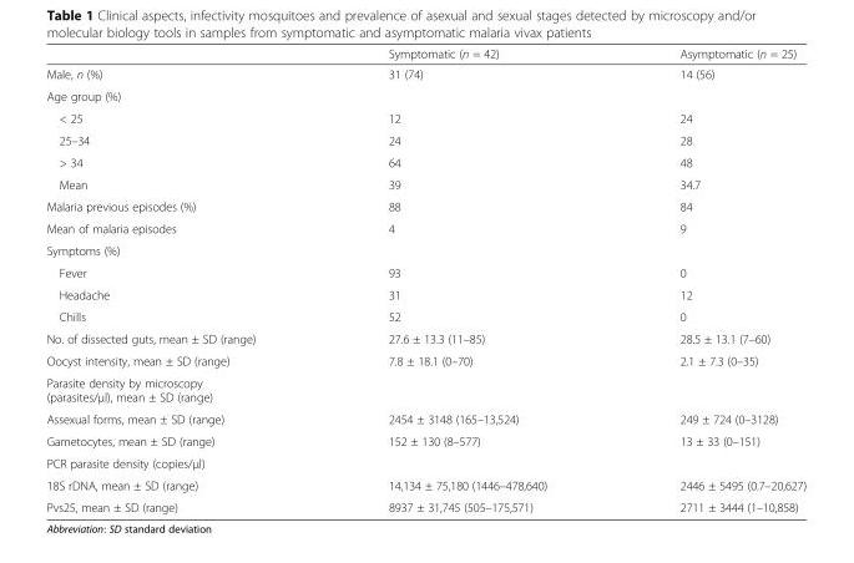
<table><thead><tr><td></td><td>Symptomatic (n = 42)</td><td>Asymptomatic (n = 25)</td></tr></thead><tbody><tr><td>Male, n (%)</td><td>31 (74)</td><td>14 (56)</td></tr><tr><td colspan="3">Age group (%)</td></tr><tr><td>&lt; 25</td><td>12</td><td>24</td></tr><tr><td>25–34</td><td>24</td><td>28</td></tr><tr><td>&gt; 34</td><td>64</td><td>48</td></tr><tr><td>Mean</td><td>39</td><td>34.7</td></tr><tr><td>Malaria previous episodes (%)</td><td>88</td><td>84</td></tr><tr><td>Mean of malaria episodes</td><td>4</td><td>9</td></tr><tr><td colspan="3">Symptoms (%)</td></tr><tr><td>Fever</td><td>93</td><td>0</td></tr><tr><td>Headache</td><td>31</td><td>12</td></tr><tr><td>Chills</td><td>52</td><td>0</td></tr><tr><td>No. of dissected guts, mean ± SD (range)</td><td>27.6 ± 13.3 (11–85)</td><td>28.5 ± 13.1 (7–60)</td></tr><tr><td>Oocyst intensity, mean ± SD (range)</td><td>7.8 ± 18.1 (0–70)</td><td>2.1 ± 7.3 (0–35)</td></tr><tr><td colspan="3">Parasite density by microscopy (parasites/μl), mean ± SD (range)</td></tr><tr><td>Assexual forms, mean ± SD (range)</td><td>2454 ± 3148 (165–13,524)</td><td>249 ± 724 (0–3128)</td></tr><tr><td>Gametocytes, mean ± SD (range)</td><td>152 ± 130 (8–577)</td><td>13 ± 33 (0–151)</td></tr><tr><td colspan="3">PCR parasite density (copies/μl)</td></tr><tr><td>18S rDNA, mean ± SD (range)</td><td>14,134 ± 75,180 (1446–478,640)</td><td>2446 ± 5495 (0.7–20,627)</td></tr><tr><td>Pvs25, mean ± SD (range)</td><td>8937 ± 31,745 (505–175,571)</td><td>2711 ± 3444 (1–10,858)</td></tr></tbody></table>